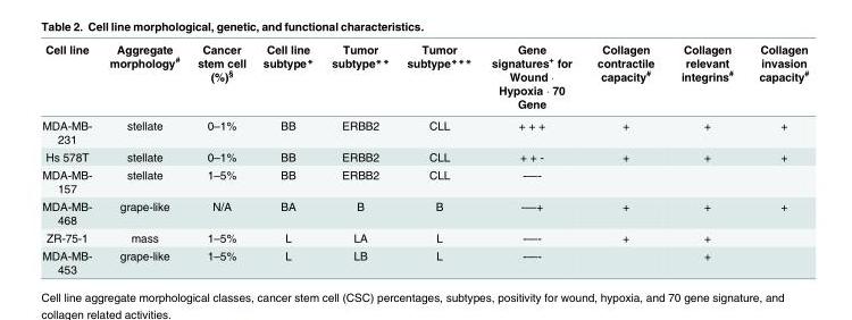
<table><thead><tr><td>Cell line</td><td>Aggregate morphology<sup>#</sup></td><td>Cancer stem cell (%)<sup>§</sup></td><td>Cell line subtype*</td><td>Tumor subtype**</td><td>Tumor subtype***</td><td>Gene signatures<sup>+</sup> for Wound · Hypoxia · 70 Gene</td><td>Collagen contractile capacity<sup>#</sup></td><td>Collagen relevant integrins<sup>#</sup></td><td>Collagen invasion capacity<sup>#</sup></td></tr></thead><tbody><tr><td>MDA-MB- 231</td><td>stellate</td><td>0–1%</td><td>BB</td><td>ERBB2</td><td>CLL</td><td>+ + +</td><td>+</td><td>+</td><td>+</td></tr><tr><td>Hs 578T</td><td>stellate</td><td>0–1%</td><td>BB</td><td>ERBB2</td><td>CLL</td><td>+ + -</td><td>+</td><td>+</td><td>+</td></tr><tr><td>MDA-MB- 157</td><td>stellate</td><td>1–5%</td><td>BB</td><td>ERBB2</td><td>CLL</td><td>-—-</td><td></td><td></td><td></td></tr><tr><td>MDA-MB- 468</td><td>grape-like</td><td>N/A</td><td>BA</td><td>B</td><td>B</td><td>-—+</td><td>+</td><td>+</td><td>+</td></tr><tr><td>ZR-75-1</td><td>mass</td><td>1–5%</td><td>L</td><td>LA</td><td>L</td><td>-—-</td><td>+</td><td>+</td><td></td></tr><tr><td>MDA-MB- 453</td><td>grape-like</td><td>1–5%</td><td>L</td><td>LB</td><td>L</td><td>-—-</td><td></td><td>+</td><td></td></tr></tbody></table>